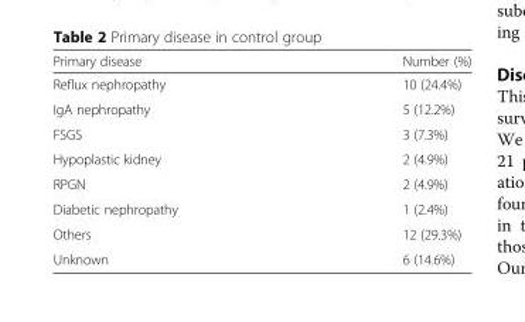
<table><thead><tr><td>Primary disease</td><td>Number (%)</td></tr></thead><tbody><tr><td>Reflux nephropathy</td><td>10 (24.4%)</td></tr><tr><td>IgA nephropathy</td><td>5 (12.2%)</td></tr><tr><td>FSGS</td><td>3 (7.3%)</td></tr><tr><td>Hypoplastic kidney</td><td>2 (4.9%)</td></tr><tr><td>RPGN</td><td>2 (4.9%)</td></tr><tr><td>Diabetic nephropathy</td><td>1 (2.4%)</td></tr><tr><td>Others</td><td>12 (29.3%)</td></tr><tr><td>Unknown</td><td>6 (14.6%)</td></tr></tbody></table>